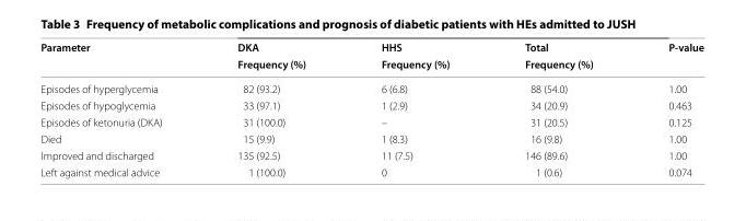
<table><thead><tr><td rowspan="2">Parameter</td><td rowspan="2">DKA Frequency (%)</td><td rowspan="2">HHS Frequency (%)</td><td rowspan="2">Total Frequency (%)</td><td rowspan="2">P-value</td></tr><tr></tr></thead><tbody><tr><td>Episodes of hyperglycemia</td><td>82 (93.2)</td><td>6 (6.8)</td><td>88 (54.0)</td><td>1.00</td></tr><tr><td>Episodes of hypoglycemia</td><td>33 (97.1)</td><td>1 (2.9)</td><td>34 (20.9)</td><td>0.463</td></tr><tr><td>Episodes of ketonuria (DKA)</td><td>31 (100.0)</td><td>–</td><td>31 (20.5)</td><td>0.125</td></tr><tr><td>Died</td><td>15 (9.9)</td><td>1 (8.3)</td><td>16 (9.8)</td><td>1.00</td></tr><tr><td>Improved and discharged</td><td>135 (92.5)</td><td>11 (7.5)</td><td>146 (89.6)</td><td>1.00</td></tr><tr><td>Left against medical advice</td><td>1 (100.0)</td><td>0</td><td>1 (0.6)</td><td>0.074</td></tr></tbody></table>